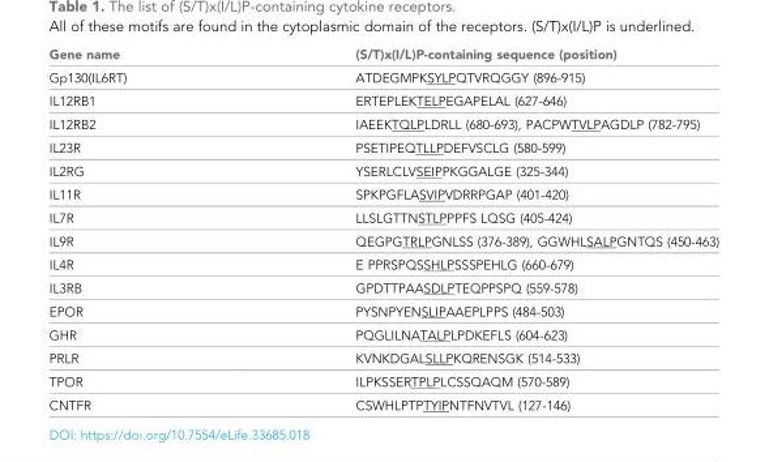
<table><thead><tr><td>Gene name</td><td>(S/T)x(I/L)P-containing sequence (position)</td></tr></thead><tbody><tr><td>Gp130(IL6RT)</td><td>ATDEGMPKSYLPQTVRQGGY (896-915)</td></tr><tr><td>IL12RB1</td><td>ERTEPLEKTELPEGAPELAL (627-646)</td></tr><tr><td>IL12RB2</td><td>IAEEKTQLPLDRLL (680-693), PACPWTVLPAGDLP (782-795)</td></tr><tr><td>IL23R</td><td>PSETIPEQTLLPDEFVSCLG (580-599)</td></tr><tr><td>IL2RG</td><td>YSERLCLVSEIPPKGGALGE (325-344)</td></tr><tr><td>IL11R</td><td>SPKPGFLASVIPVDRRPGAP (401-420)</td></tr><tr><td>IL7R</td><td>LLSLGTTNSTLPPPFS LQSG (405-424)</td></tr><tr><td>IL9R</td><td>QEGPGTRLPGNLSS (376-389), GGWHLSALPGNTQS (450-463)</td></tr><tr><td>IL4R</td><td>E PPRSPQSSHLPSSSPEHLG (660-679)</td></tr><tr><td>IL3RB</td><td>GPDTTPAASDLPTEQPPSPQ (559-578)</td></tr><tr><td>EPOR</td><td>PYSNPYENSLIPAAEPLPPS (484-503)</td></tr><tr><td>GHR</td><td>PQGLILNATALPLPDKEFLS (604-623)</td></tr><tr><td>PRLR</td><td>KVNKDGALSLLPKQRENSGK (514-533)</td></tr><tr><td>TPOR</td><td>ILPKSSERTPLPLCSSQAQM (570-589)</td></tr><tr><td>CNTFR</td><td>CSWHLPTPTYIPNTFNVTVL (127-146)</td></tr></tbody></table>